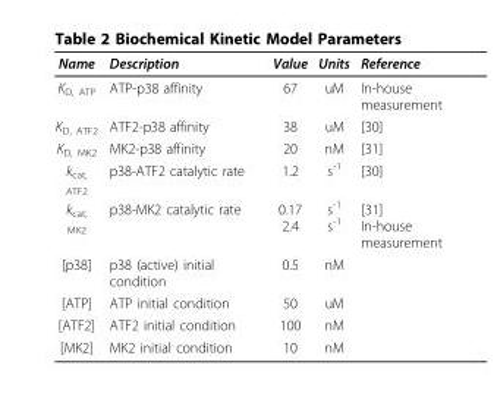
<table><thead><tr><td>Name</td><td>Description</td><td>Value</td><td>Units</td><td>Reference</td></tr></thead><tbody><tr><td>K<sub>D, ATP</sub></td><td>ATP-p38 affinity</td><td>67</td><td>uM</td><td>In-house measurement</td></tr><tr><td>K<sub>D, ATF2</sub></td><td>ATF2-p38 affinity</td><td>38</td><td>uM</td><td>[30]</td></tr><tr><td>K<sub>D, MK2</sub></td><td>MK2-p38 affinity</td><td>20</td><td>nM</td><td>[31]</td></tr><tr><td>k<sub>cat, ATF2</sub></td><td>p38-ATF2 catalytic rate</td><td>1.2</td><td>s<sup>-1</sup></td><td>[30]</td></tr><tr><td>k<sub>cat, MK2</sub></td><td>p38-MK2 catalytic rate</td><td>0.17 2.4</td><td>s<sup>-1</sup> s<sup>-1</sup></td><td>[31] In-house measurement</td></tr><tr><td>[p38]</td><td>p38 (active) initial condition</td><td>0.5</td><td>nM</td><td></td></tr><tr><td>[ATP]</td><td>ATP initial condition</td><td>50</td><td>uM</td><td></td></tr><tr><td>[ATF2]</td><td>ATF2 initial condition</td><td>100</td><td>nM</td><td></td></tr><tr><td>[MK2]</td><td>MK2 initial condition</td><td>10</td><td>nM</td><td></td></tr></tbody></table>